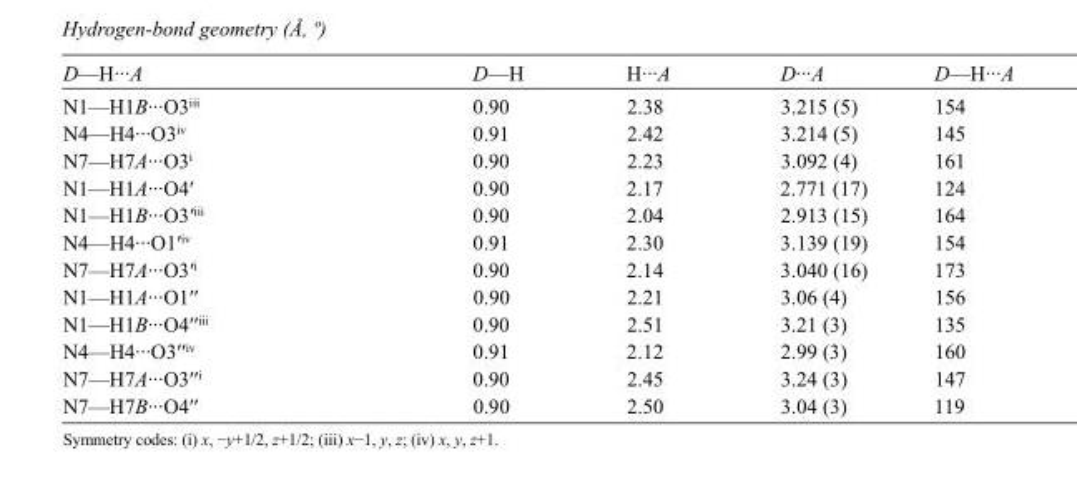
<table><tbody><tr><td>D—H···A</td><td>D—H</td><td>H···A</td><td>D···A</td><td>D—H···A</td></tr><tr><td>N1—H1B···O3<sup>iii</sup></td><td>0.90</td><td>2.38</td><td>3.215 (5)</td><td>154</td></tr><tr><td>N4—H4···O3<sup>iv</sup></td><td>0.91</td><td>2.42</td><td>3.214 (5)</td><td>145</td></tr><tr><td>N7—H7A···O3<sup>i</sup></td><td>0.90</td><td>2.23</td><td>3.092 (4)</td><td>161</td></tr><tr><td>N1—H1A···O4′</td><td>0.90</td><td>2.17</td><td>2.771 (17)</td><td>124</td></tr><tr><td>N1—H1B···O3′<sup>iii</sup></td><td>0.90</td><td>2.04</td><td>2.913 (15)</td><td>164</td></tr><tr><td>N4—H4···O1′<sup>iv</sup></td><td>0.91</td><td>2.30</td><td>3.139 (19)</td><td>154</td></tr><tr><td>N7—H7A···O3′<sup>i</sup></td><td>0.90</td><td>2.14</td><td>3.040 (16)</td><td>173</td></tr><tr><td>N1—H1A···O1′′</td><td>0.90</td><td>2.21</td><td>3.06 (4)</td><td>156</td></tr><tr><td>N1—H1B···O4′′<sup>iii</sup></td><td>0.90</td><td>2.51</td><td>3.21 (3)</td><td>135</td></tr><tr><td>N4—H4···O3′′<sup>iv</sup></td><td>0.91</td><td>2.12</td><td>2.99 (3)</td><td>160</td></tr><tr><td>N7—H7A···O3′′<sup>i</sup></td><td>0.90</td><td>2.45</td><td>3.24 (3)</td><td>147</td></tr><tr><td>N7—H7B···O4′′</td><td>0.90</td><td>2.50</td><td>3.04 (3)</td><td>119</td></tr></tbody></table>